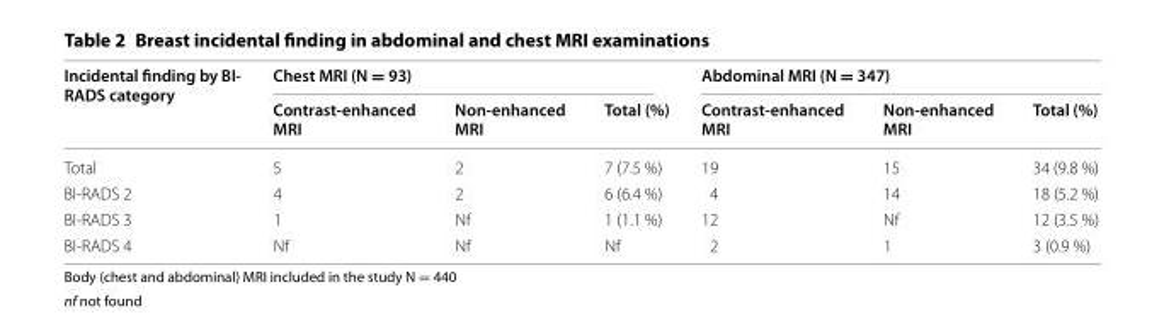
<table><thead><tr><td rowspan="2">Incidental finding by BI- RADS category</td><td colspan="3">Chest MRI (N = 93)</td><td colspan="3">Abdominal MRI (N = 347)</td></tr><tr><td>Contrast-enhanced MRI</td><td>Non-enhanced MRI</td><td>Total (%)</td><td>Contrast-enhanced MRI</td><td>Non-enhanced MRI</td><td>Total (%)</td></tr></thead><tbody><tr><td>Total</td><td>5</td><td>2</td><td>7 (7.5 %)</td><td>19</td><td>15</td><td>34 (9.8 %)</td></tr><tr><td>BI-RADS 2</td><td>4</td><td>2</td><td>6 (6.4 %)</td><td>4</td><td>14</td><td>18 (5.2 %)</td></tr><tr><td>BI-RADS 3</td><td>1</td><td>Nf</td><td>1 (1.1 %)</td><td>12</td><td>Nf</td><td>12 (3.5 %)</td></tr><tr><td>BI-RADS 4</td><td>Nf</td><td>Nf</td><td>Nf</td><td>2</td><td>1</td><td>3 (0.9 %)</td></tr></tbody></table>